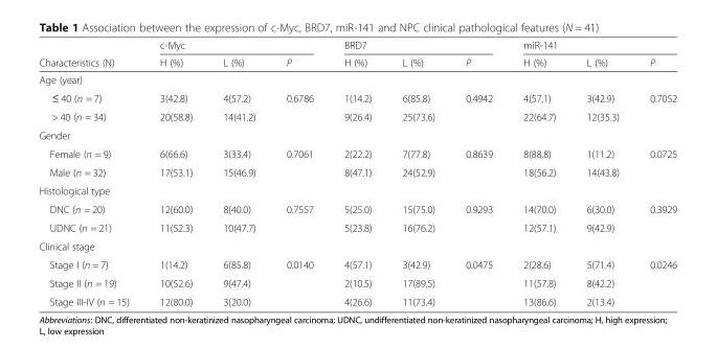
<table><thead><tr><td rowspan="2">Characteristics (N)</td><td colspan="3">c-Myc</td><td colspan="3">BRD7</td><td colspan="3">miR-141</td></tr><tr><td>H (%)</td><td>L (%)</td><td>P</td><td>H (%)</td><td>L (%)</td><td>P</td><td>H (%)</td><td>L (%)</td><td>P</td></tr></thead><tbody><tr><td colspan="10">Age (year)</td></tr><tr><td>≤ 40 (n = 7)</td><td>3(42.8)</td><td>4(57.2)</td><td>0.6786</td><td>1(14.2)</td><td>6(85.8)</td><td>0.4942</td><td>4(57.1)</td><td>3(42.9)</td><td>0.7052</td></tr><tr><td>&gt; 40 (n = 34)</td><td>20(58.8)</td><td>14(41.2)</td><td></td><td>9(26.4)</td><td>25(73.6)</td><td></td><td>22(64.7)</td><td>12(35.3)</td><td></td></tr><tr><td colspan="10">Gender</td></tr><tr><td>Female (n = 9)</td><td>6(66.6)</td><td>3(33.4)</td><td>0.7061</td><td>2(22.2)</td><td>7(77.8)</td><td>0.8639</td><td>8(88.8)</td><td>1(11.2)</td><td>0.0725</td></tr><tr><td>Male (n = 32)</td><td>17(53.1)</td><td>15(46.9)</td><td></td><td>8(47.1)</td><td>24(52.9)</td><td></td><td>18(56.2)</td><td>14(43.8)</td><td></td></tr><tr><td colspan="10">Histological type</td></tr><tr><td>DNC (n = 20)</td><td>12(60.0)</td><td>8(40.0)</td><td>0.7557</td><td>5(25.0)</td><td>15(75.0)</td><td>0.9293</td><td>14(70.0)</td><td>6(30.0)</td><td>0.3929</td></tr><tr><td>UDNC (n = 21)</td><td>11(52.3)</td><td>10(47.7)</td><td></td><td>5(23.8)</td><td>16(76.2)</td><td></td><td>12(57.1)</td><td>9(42.9)</td><td></td></tr><tr><td colspan="10">Clinical stage</td></tr><tr><td>Stage I (n = 7)</td><td>1(14.2)</td><td>6(85.8)</td><td>0.0140</td><td>4(57.1)</td><td>3(42.9)</td><td>0.0475</td><td>2(28.6)</td><td>5(71.4)</td><td>0.0246</td></tr><tr><td>Stage II (n = 19)</td><td>10(52.6)</td><td>9(47.4)</td><td></td><td>2(10.5)</td><td>17(89.5)</td><td></td><td>11(57.8)</td><td>8(42.2)</td><td></td></tr><tr><td>Stage III-IV (n = 15)</td><td>12(80.0)</td><td>3(20.0)</td><td></td><td>4(26.6)</td><td>11(73.4)</td><td></td><td>13(86.6)</td><td>2(13.4)</td><td></td></tr></tbody></table>